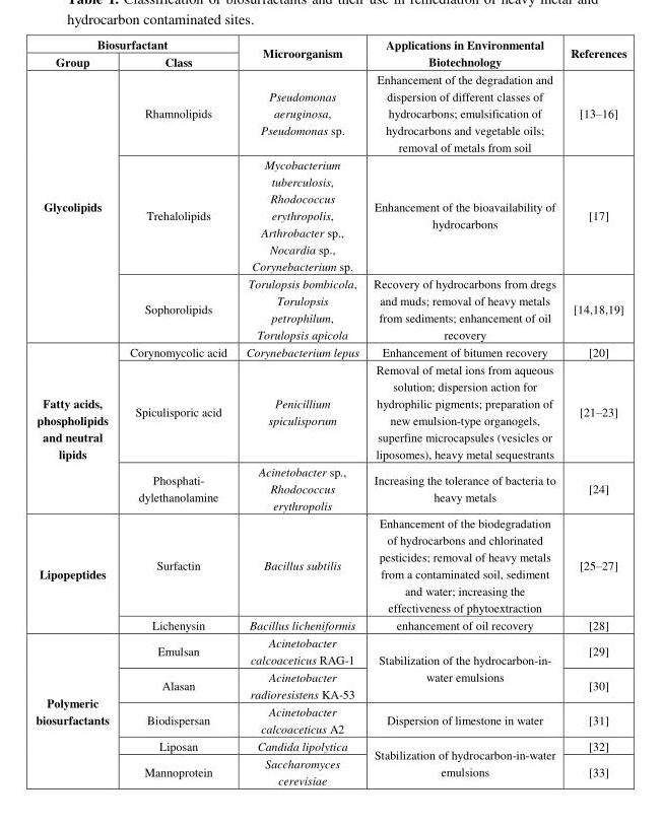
<table><thead><tr><td colspan="2">Biosurfactant</td><td rowspan="2">Microorganism</td><td rowspan="2">Applications in Environmental Biotechnology</td><td rowspan="2">References</td></tr><tr><td>Group</td><td>Class</td></tr></thead><tbody><tr><td rowspan="3">Glycolipids</td><td>Rhamnolipids</td><td>Pseudomonas aeruginosa, Pseudomonas sp.</td><td>Enhancement of the degradation and dispersion of different classes of hydrocarbons; emulsification of hydrocarbons and vegetable oils; removal of metals from soil</td><td>[13–16]</td></tr><tr><td>Trehalolipids</td><td>Mycobacterium tuberculosis, Rhodococcus erythropolis, Arthrobacter sp., Nocardia sp., Corynebacterium sp.</td><td>Enhancement of the bioavailability of hydrocarbons</td><td>[17]</td></tr><tr><td>Sophorolipids</td><td>Torulopsis bombicola, Torulopsis petrophilum, Torulopsis apicola</td><td>Recovery of hydrocarbons from dregs and muds; removal of heavy metals from sediments; enhancement of oil recovery</td><td>[14,18,19]</td></tr><tr><td rowspan="3">Fatty acids, phospholipids and neutral lipids</td><td>Corynomycolic acid</td><td>Corynebacterium lepus</td><td>Enhancement of bitumen recovery</td><td>[20]</td></tr><tr><td>Spiculisporic acid</td><td>Penicillium spiculisporum</td><td>Removal of metal ions from aqueous solution; dispersion action for hydrophilic pigments; preparation of new emulsion-type organogels, superfine microcapsules (vesicles or liposomes), heavy metal sequestrants</td><td>[21–23]</td></tr><tr><td>Phosphati- dylethanolamine</td><td>Acinetobacter sp., Rhodococcus erythropolis</td><td>Increasing the tolerance of bacteria to heavy metals</td><td>[24]</td></tr><tr><td rowspan="2">Lipopeptides</td><td>Surfactin</td><td>Bacillus subtilis</td><td>Enhancement of the biodegradation of hydrocarbons and chlorinated pesticides; removal of heavy metals from a contaminated soil, sediment and water; increasing the effectiveness of phytoextraction</td><td>[25–27]</td></tr><tr><td>Lichenysin</td><td>Bacillus licheniformis</td><td>enhancement of oil recovery</td><td>[28]</td></tr><tr><td rowspan="5">Polymeric biosurfactants</td><td>Emulsan</td><td>Acinetobacter calcoaceticus RAG-1</td><td rowspan="2">Stabilization of the hydrocarbon-in- water emulsions</td><td>[29]</td></tr><tr><td>Alasan</td><td>Acinetobacter radioresistens KA-53</td><td>[30]</td></tr><tr><td>Biodispersan</td><td>Acinetobacter calcoaceticus A2</td><td>Dispersion of limestone in water</td><td>[31]</td></tr><tr><td>Liposan</td><td>Candida lipolytica</td><td rowspan="2">Stabilization of hydrocarbon-in-water emulsions</td><td>[32]</td></tr><tr><td>Mannoprotein</td><td>Saccharomyces cerevisiae</td><td>[33]</td></tr></tbody></table>